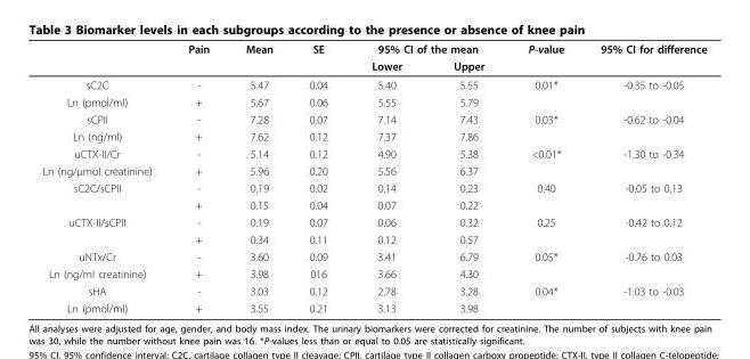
<table><thead><tr><td rowspan="2"></td><td rowspan="2">Pain</td><td rowspan="2">Mean</td><td rowspan="2">SE</td><td colspan="2">95% CI of the mean</td><td rowspan="2">P-value</td><td rowspan="2">95% CI for difference</td></tr><tr><td>Lower</td><td>Upper</td></tr></thead><tbody><tr><td>sC2C</td><td>-</td><td>5.47</td><td>0.04</td><td>5.40</td><td>5.55</td><td>0.01*</td><td>-0.35 to -0.05</td></tr><tr><td>Ln (pmol/ml)</td><td>+</td><td>5.67</td><td>0.06</td><td>5.55</td><td>5.79</td><td></td><td></td></tr><tr><td>sCPII</td><td>-</td><td>7.28</td><td>0.07</td><td>7.14</td><td>7.43</td><td>0.03*</td><td>-0.62 to -0.04</td></tr><tr><td>Ln (ng/ml)</td><td>+</td><td>7.62</td><td>0.12</td><td>7.37</td><td>7.86</td><td></td><td></td></tr><tr><td>uCTX-II/Cr</td><td>-</td><td>5.14</td><td>0.12</td><td>4.90</td><td>5.38</td><td>&lt;0.01*</td><td>-1.30 to -0.34</td></tr><tr><td>Ln (ng/μmol creatinine)</td><td>+</td><td>5.96</td><td>0.20</td><td>5.56</td><td>6.37</td><td></td><td></td></tr><tr><td rowspan="2">sC2C/sCPII</td><td>-</td><td>0.19</td><td>0.02</td><td>0.14</td><td>0.23</td><td>0.40</td><td>-0.05 to 0.13</td></tr><tr><td>+</td><td>0.15</td><td>0.04</td><td>0.07</td><td>0.22</td><td></td><td></td></tr><tr><td rowspan="2">uCTX-II/sCPII</td><td>-</td><td>0.19</td><td>0.07</td><td>0.06</td><td>0.32</td><td>0.25</td><td>-0.42 to 0.12</td></tr><tr><td>+</td><td>0.34</td><td>0.11</td><td>0.12</td><td>0.57</td><td></td><td></td></tr><tr><td>uNTx/Cr</td><td>-</td><td>3.60</td><td>0.09</td><td>3.41</td><td>6.79</td><td>0.05*</td><td>-0.76 to 0.03</td></tr><tr><td>Ln (ng/ml creatinine)</td><td>+</td><td>3.98</td><td>016</td><td>3.66</td><td>4.30</td><td></td><td></td></tr><tr><td>sHA</td><td>-</td><td>3.03</td><td>0.12</td><td>2.78</td><td>3.28</td><td>0.04*</td><td>-1.03 to -0.03</td></tr><tr><td>Ln (pmol/ml)</td><td>+</td><td>3.55</td><td>0.21</td><td>3.13</td><td>3.98</td><td></td><td></td></tr></tbody></table>